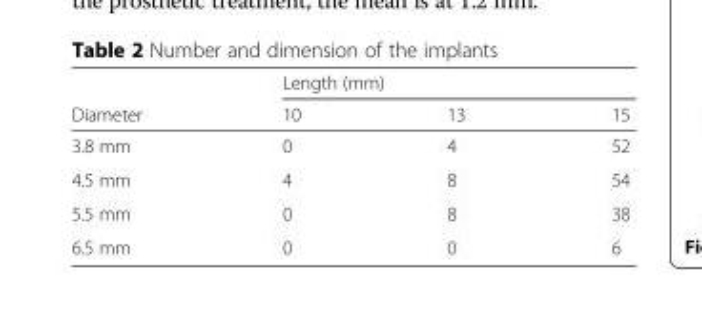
<table><thead><tr><td rowspan="2">Diameter</td><td colspan="3">Length (mm)</td></tr><tr><td>10</td><td>13</td><td>15</td></tr></thead><tbody><tr><td>3.8 mm</td><td>0</td><td>4</td><td>52</td></tr><tr><td>4.5 mm</td><td>4</td><td>8</td><td>54</td></tr><tr><td>5.5 mm</td><td>0</td><td>8</td><td>38</td></tr><tr><td>6.5 mm</td><td>0</td><td>0</td><td>6</td></tr></tbody></table>